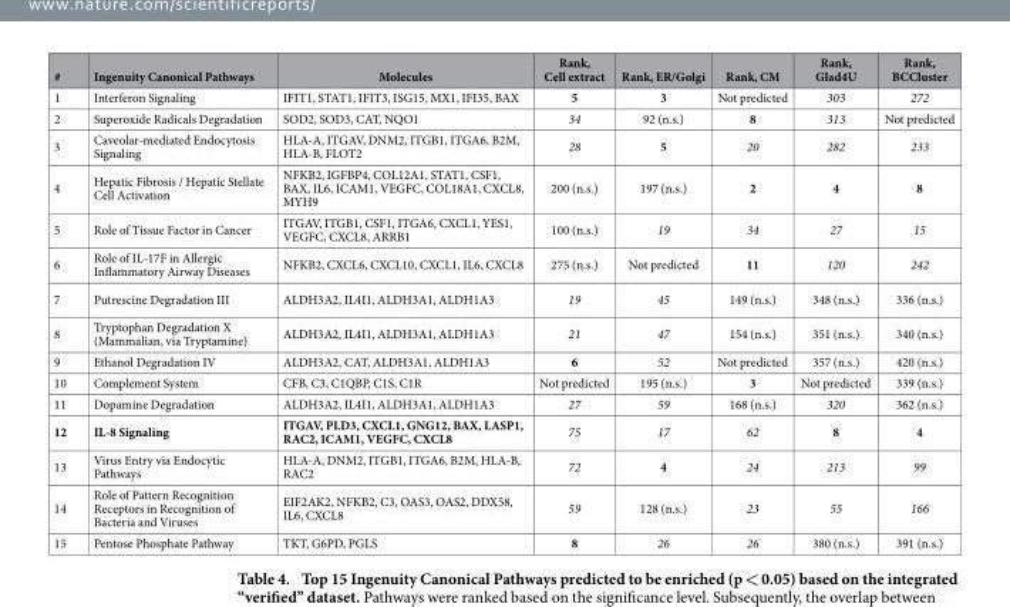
<table><thead><tr><td>#</td><td>Ingenuity Canonical Pathways</td><td>Molecules</td><td>Rank, Cell extract</td><td>Rank, ER/Golgi</td><td>Rank, CM</td><td>Rank, Glad4U</td><td>Rank, BCCluster</td></tr></thead><tbody><tr><td>1</td><td>Interferon Signaling</td><td>IFIT1, STAT1, IFIT3, ISG15, MX1, IFI35, BAX</td><td>5</td><td>3</td><td>Not predicted</td><td>303</td><td>272</td></tr><tr><td>2</td><td>Superoxide Radicals Degradation</td><td>SOD2, SOD3, CAT, NQO1</td><td>34</td><td>92 (n.s.)</td><td>8</td><td>313</td><td>Not predicted</td></tr><tr><td>3</td><td>Caveolar-mediated Endocytosis Signaling</td><td>HLA-A, ITGAV, DNM2, ITGB1, ITGA6, B2M, HLA-B, FLOT2</td><td>28</td><td>5</td><td>20</td><td>282</td><td>233</td></tr><tr><td>4</td><td>Hepatic Fibrosis / Hepatic Stellate Cell Activation</td><td>NFKB2, IGFBP4, COL12A1, STAT1, CSF1, BAX, IL6, ICAM1, VEGFC, COL18A1, CXCL8, MYH9</td><td>200 (n.s.)</td><td>197 (n.s.)</td><td>2</td><td>4</td><td>8</td></tr><tr><td>5</td><td>Role of Tissue Factor in Cancer</td><td>ITGAV, ITGB1, CSF1, ITGA6, CXCL1, YES1, VEGFC, CXCL8, ARRB1</td><td>100 (n.s.)</td><td>19</td><td>34</td><td>27</td><td>15</td></tr><tr><td>6</td><td>Role of IL-17F in Allergic Inflammatory Airway Diseases</td><td>NFKB2, CXCL6, CXCL10, CXCL1, IL6, CXCL8</td><td>275 (n.s.)</td><td>Not predicted</td><td>11</td><td>120</td><td>242</td></tr><tr><td>7</td><td>Putrescine Degradation III</td><td>ALDH3A2, IL4I1, ALDH3A1, ALDH1A3</td><td>19</td><td>45</td><td>149 (n.s.)</td><td>348 (n.s.)</td><td>336 (n.s.)</td></tr><tr><td>8</td><td>Tryptophan Degradation X (Mammalian, via Tryptamine)</td><td>ALDH3A2, IL4I1, ALDH3A1, ALDH1A3</td><td>21</td><td>47</td><td>154 (n.s.)</td><td>351 (n.s.)</td><td>340 (n.s.)</td></tr><tr><td>9</td><td>Ethanol Degradation IV</td><td>ALDH3A2, CAT, ALDH3A1, ALDH1A3</td><td>6</td><td>52</td><td>Not predicted</td><td>357 (n.s.)</td><td>420 (n.s.)</td></tr><tr><td>10</td><td>Complement System</td><td>CFB, C3, C1QBP, C1S, C1R</td><td>Not predicted</td><td>195 (n.s.)</td><td>3</td><td>Not predicted</td><td>339 (n.s.)</td></tr><tr><td>11</td><td>Dopamine Degradation</td><td>ALDH3A2, IL4I1, ALDH3A1, ALDH1A3</td><td>27</td><td>59</td><td>168 (n.s.)</td><td>320</td><td>362 (n.s.)</td></tr><tr><td>12</td><td>IL-8 Signaling</td><td>ITGAV, PLD3, CXCL1, GNG12, BAX, LASP1, RAC2, ICAM1, VEGFC, CXCL8</td><td>75</td><td>17</td><td>62</td><td>8</td><td>4</td></tr><tr><td>13</td><td>Virus Entry via Endocytic Pathways</td><td>HLA-A, DNM2, ITGB1, ITGA6, B2M, HLA-B, RAC2</td><td>72</td><td>4</td><td>24</td><td>213</td><td>99</td></tr><tr><td>14</td><td>Role of Pattern Recognition Receptors in Recognition of Bacteria and Viruses</td><td>EIF2AK2, NFKB2, C3, OAS3, OAS2, DDX58, IL6, CXCL8</td><td>59</td><td>128 (n.s.)</td><td>23</td><td>55</td><td>166</td></tr><tr><td>15</td><td>Pentose Phosphate Pathway</td><td>TKT, G6PD, PGLS</td><td>8</td><td>26</td><td>26</td><td>380 (n.s.)</td><td>391 (n.s.)</td></tr></tbody></table>